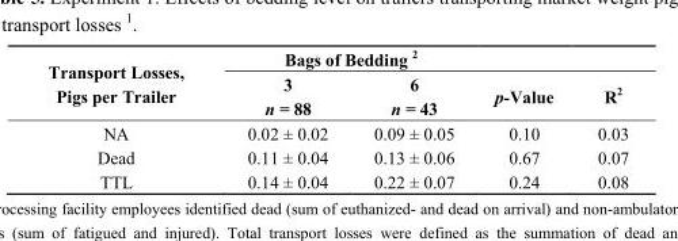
<table><thead><tr><td rowspan="2">Transport Losses, Pigs per Trailer</td><td colspan="2">Bags of Bedding <sup>2</sup></td><td rowspan="2">p-Value</td><td rowspan="2">R<sup>2</sup></td></tr><tr><td>3 n = 88</td><td>6 n = 43</td></tr></thead><tbody><tr><td>NA</td><td>0.02 ± 0.02</td><td>0.09 ± 0.05</td><td>0.10</td><td>0.03</td></tr><tr><td>Dead</td><td>0.11 ± 0.04</td><td>0.13 ± 0.06</td><td>0.67</td><td>0.07</td></tr><tr><td>TTL</td><td>0.14 ± 0.04</td><td>0.22 ± 0.07</td><td>0.24</td><td>0.08</td></tr></tbody></table>